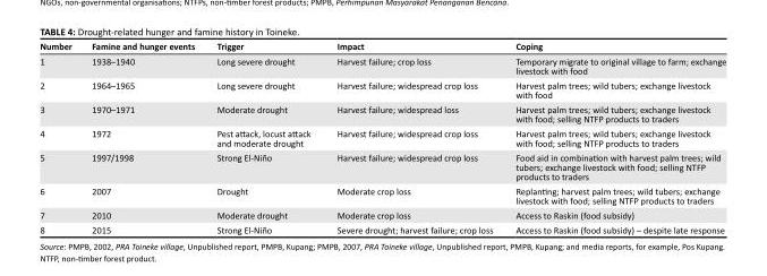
<table><thead><tr><td>Number</td><td>Famine and hunger events</td><td>Trigger</td><td>Impact</td><td>Coping</td></tr></thead><tbody><tr><td>1</td><td>1938–1940</td><td>Long severe drought</td><td>Harvest failure; crop loss</td><td>Temporary migrate to original village to farm; exchange livestock with food</td></tr><tr><td>2</td><td>1964–1965</td><td>Long severe drought</td><td>Harvest failure; widespread crop loss</td><td>Harvest palm trees; wild tubers; exchange livestock with food</td></tr><tr><td>3</td><td>1970–1971</td><td>Moderate drought</td><td>Harvest failure; widespread loss</td><td>Harvest palm trees; wild tubers; exchange livestock with food; selling NTFP products to traders</td></tr><tr><td>4</td><td>1972</td><td>Pest attack, locust attack and moderate drought</td><td>Harvest failure; widespread crop loss</td><td>Harvest palm trees; wild tubers; exchange livestock with food; selling NTFP products to traders</td></tr><tr><td>5</td><td>1997/1998</td><td>Strong El-Niño</td><td>Harvest failure; widespread crop loss</td><td>Food aid in combination with harvest palm trees; wild tubers; exchange livestock with food; selling NTFP products to traders</td></tr><tr><td>6</td><td>2007</td><td>Drought</td><td>Moderate crop loss</td><td>Replanting; harvest palm trees; wild tubers; exchange livestock with food; selling NTFP products to traders</td></tr><tr><td>7</td><td>2010</td><td>Moderate drought</td><td>Moderate crop loss</td><td>Access to Raskin (food subsidy)</td></tr><tr><td>8</td><td>2015</td><td>Strong El-Niño</td><td>Severe drought; harvest failure; crop loss</td><td>Access to Raskin (food subsidy) – despite late response</td></tr></tbody></table>